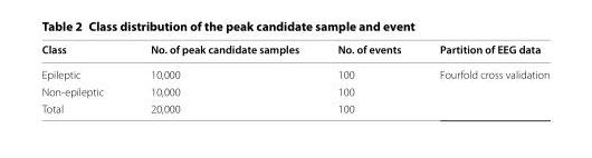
<table><thead><tr><td>Class</td><td>No. of peak candidate samples</td><td>No. of events</td><td>Partition of EEG data</td></tr></thead><tbody><tr><td>Epileptic</td><td>10,000</td><td>100</td><td rowspan="3">Fourfold cross validation</td></tr><tr><td>Non-epileptic</td><td>10,000</td><td>100</td></tr><tr><td>Total</td><td>20,000</td><td>100</td></tr></tbody></table>